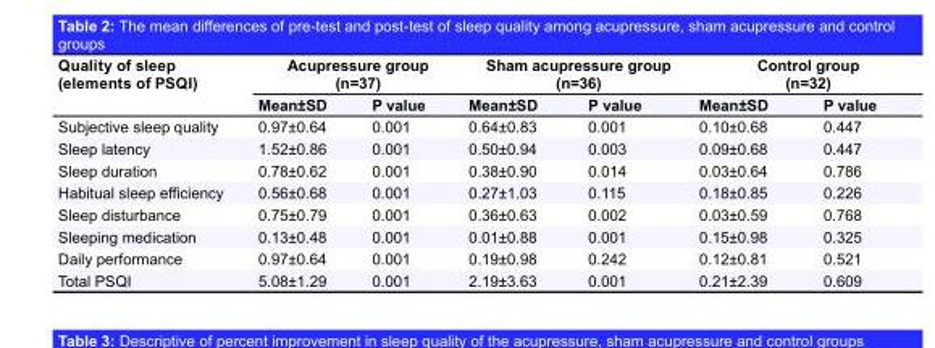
<table><thead><tr><td rowspan="2">Quality of sleep (elements of PSQI)</td><td colspan="2">Acupressure group (n=37)</td><td colspan="2">Sham acupressure group (n=36)</td><td colspan="2">Control group (n=32)</td></tr><tr><td>Mean±SD</td><td>P value</td><td>Mean±SD</td><td>P value</td><td>Mean±SD</td><td>P value</td></tr></thead><tbody><tr><td>Subjective sleep quality</td><td>0.97±0.64</td><td>0.001</td><td>0.64±0.83</td><td>0.001</td><td>0.10±0.68</td><td>0.447</td></tr><tr><td>Sleep latency</td><td>1.52±0.86</td><td>0.001</td><td>0.50±0.94</td><td>0.003</td><td>0.09±0.68</td><td>0.447</td></tr><tr><td>Sleep duration</td><td>0.78±0.62</td><td>0.001</td><td>0.38±0.90</td><td>0.014</td><td>0.03±0.64</td><td>0.786</td></tr><tr><td>Habitual sleep efficiency</td><td>0.56±0.68</td><td>0.001</td><td>0.27±1.03</td><td>0.115</td><td>0.18±0.85</td><td>0.226</td></tr><tr><td>Sleep disturbance</td><td>0.75±0.79</td><td>0.001</td><td>0.36±0.63</td><td>0.002</td><td>0.03±0.59</td><td>0.768</td></tr><tr><td>Sleeping medication</td><td>0.13±0.48</td><td>0.001</td><td>0.01±0.88</td><td>0.001</td><td>0.15±0.98</td><td>0.325</td></tr><tr><td>Daily performance</td><td>0.97±0.64</td><td>0.001</td><td>0.19±0.98</td><td>0.242</td><td>0.12±0.81</td><td>0.521</td></tr><tr><td>Total PSQI</td><td>5.08±1.29</td><td>0.001</td><td>2.19±3.63</td><td>0.001</td><td>0.21±2.39</td><td>0.609</td></tr></tbody></table>